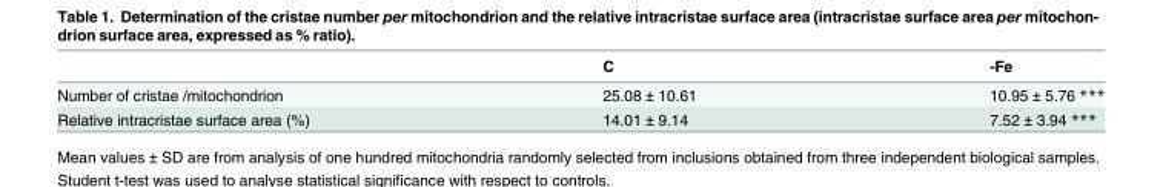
<table><thead><tr><td></td><td>C</td><td>-Fe</td></tr></thead><tbody><tr><td>Number of cristae /mitochondrion</td><td>25.08 ± 10.61</td><td>10.95 ± 5.76 ***</td></tr><tr><td>Relative intracristae surface area (%)</td><td>14.01 ± 9.14</td><td>7.52 ± 3.94 ***</td></tr></tbody></table>